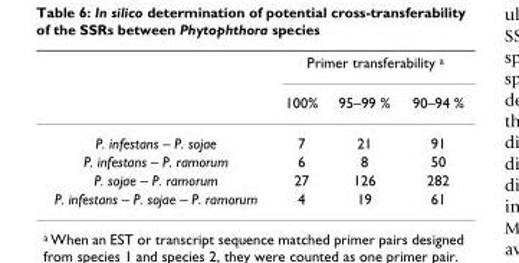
<table><thead><tr><td rowspan="2"></td><td colspan="3">Primer transferability a</td></tr><tr><td>100%</td><td>95–99 %</td><td>90–94 %</td></tr></thead><tbody><tr><td>P. infestans – P. sojae</td><td>7</td><td>21</td><td>91</td></tr><tr><td>P. infestans – P. ramorum</td><td>6</td><td>8</td><td>50</td></tr><tr><td>P. sojae – P. ramorum</td><td>27</td><td>126</td><td>282</td></tr><tr><td>P. infestans – P. sojae – P. ramorum</td><td>4</td><td>19</td><td>61</td></tr></tbody></table>